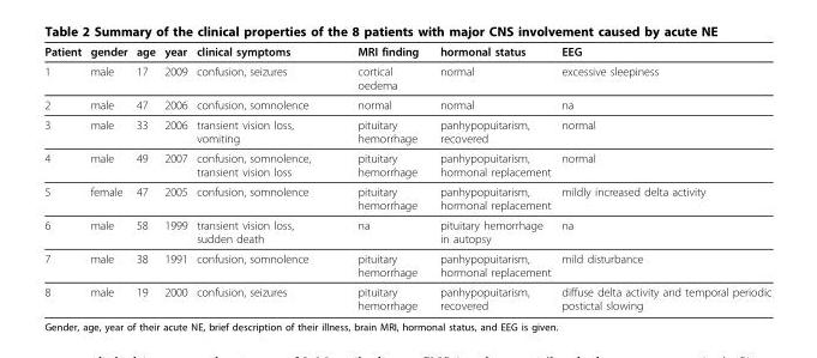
<table><thead><tr><td>Patient</td><td>gender</td><td>age</td><td>year</td><td>clinical symptoms</td><td>MRI finding</td><td>hormonal status</td><td>EEG</td></tr></thead><tbody><tr><td>1</td><td>male</td><td>17</td><td>2009</td><td>confusion, seizures</td><td>cortical oedema</td><td>normal</td><td>excessive sleepiness</td></tr><tr><td>2</td><td>male</td><td>47</td><td>2006</td><td>confusion, somnolence</td><td>normal</td><td>normal</td><td>na</td></tr><tr><td>3</td><td>male</td><td>33</td><td>2006</td><td>transient vision loss, vomiting</td><td>pituitary hemorrhage</td><td>panhypopuitarism, recovered</td><td>normal</td></tr><tr><td>4</td><td>male</td><td>49</td><td>2007</td><td>confusion, somnolence, transient vision loss</td><td>pituitary hemorrhage</td><td>panhypopuitarism, hormonal replacement</td><td>normal</td></tr><tr><td>5</td><td>female</td><td>47</td><td>2005</td><td>confusion, somnolence</td><td>pituitary hemorrhage</td><td>panhypopuitarism, hormonal replacement</td><td>mildly increased delta activity</td></tr><tr><td>6</td><td>male</td><td>58</td><td>1999</td><td>transient vision loss, sudden death</td><td>na</td><td>pituitary hemorrhage in autopsy</td><td>na</td></tr><tr><td>7</td><td>male</td><td>38</td><td>1991</td><td>confusion, somnolence</td><td>pituitary hemorrhage</td><td>panhypopuitarism, hormonal replacement</td><td>mild disturbance</td></tr><tr><td>8</td><td>male</td><td>19</td><td>2000</td><td>confusion, seizures</td><td>pituitary hemorrhage</td><td>panhypopuitarism, recovered</td><td>diffuse delta activity and temporal periodic postictal slowing</td></tr></tbody></table>